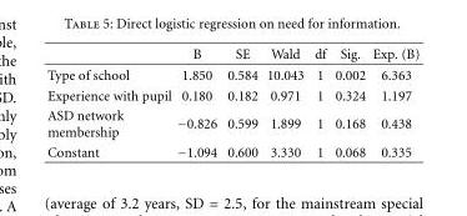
<table><thead><tr><td></td><td>B</td><td>SE</td><td>Wald</td><td>df</td><td>Sig.</td><td>Exp. (B)</td></tr></thead><tbody><tr><td>Type of school</td><td>1.850</td><td>0.584</td><td>10.043</td><td>1</td><td>0.002</td><td>6.363</td></tr><tr><td>Experience with pupil</td><td>0.180</td><td>0.182</td><td>0.971</td><td>1</td><td>0.324</td><td>1.197</td></tr><tr><td>ASD network membership</td><td>−0.826</td><td>0.599</td><td>1.899</td><td>1</td><td>0.168</td><td>0.438</td></tr><tr><td>Constant</td><td>−1.094</td><td>0.600</td><td>3.330</td><td>1</td><td>0.068</td><td>0.335</td></tr></tbody></table>